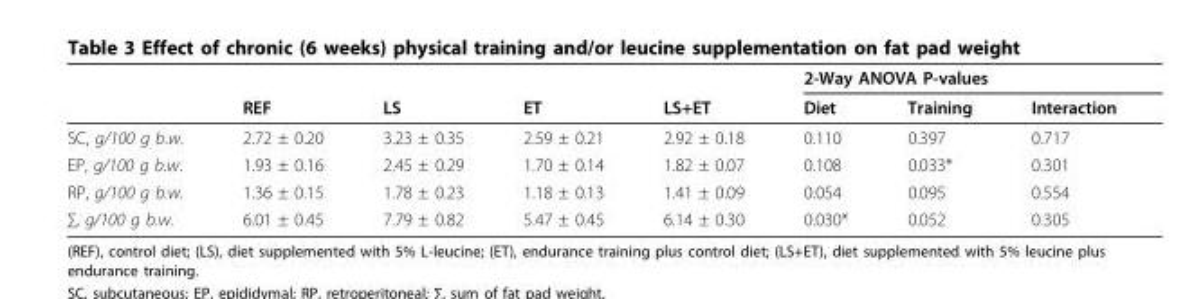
<table><thead><tr><td rowspan="2"></td><td rowspan="2">REF</td><td rowspan="2">LS</td><td rowspan="2">ET</td><td rowspan="2">LS+ET</td><td colspan="3">2-Way ANOVA P-values</td></tr><tr><td>Diet</td><td>Training</td><td>Interaction</td></tr></thead><tbody><tr><td>SC, g/100 g b.w.</td><td>2.72 ± 0.20</td><td>3.23 ± 0.35</td><td>2.59 ± 0.21</td><td>2.92 ± 0.18</td><td>0.110</td><td>0.397</td><td>0.717</td></tr><tr><td>EP, g/100 g b.w.</td><td>1.93 ± 0.16</td><td>2.45 ± 0.29</td><td>1.70 ± 0.14</td><td>1.82 ± 0.07</td><td>0.108</td><td>0.033*</td><td>0.301</td></tr><tr><td>RP, g/100 g b.w.</td><td>1.36 ± 0.15</td><td>1.78 ± 0.23</td><td>1.18 ± 0.13</td><td>1.41 ± 0.09</td><td>0.054</td><td>0.095</td><td>0.554</td></tr><tr><td>∑, g/100 g b.w.</td><td>6.01 ± 0.45</td><td>7.79 ± 0.82</td><td>5.47 ± 0.45</td><td>6.14 ± 0.30</td><td>0.030*</td><td>0.052</td><td>0.305</td></tr></tbody></table>